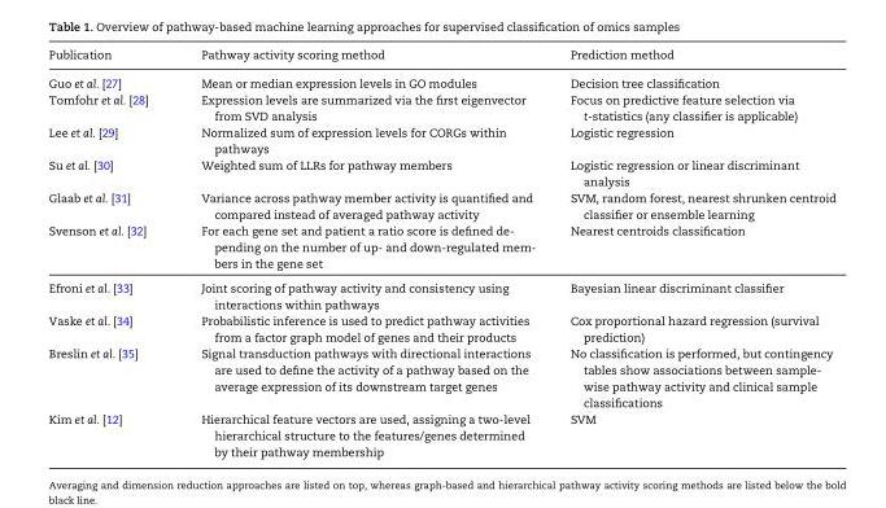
<table><thead><tr><td>Publication</td><td>Pathway activity scoring method</td><td>Prediction method</td></tr></thead><tbody><tr><td>Guo et al. [27]</td><td>Mean or median expression levels in GO modules</td><td>Decision tree classification</td></tr><tr><td>Tomfohr et al. [28]</td><td>Expression levels are summarized via the first eigenvector from SVD analysis</td><td>Focus on predictive feature selection via t-statistics (any classifier is applicable)</td></tr><tr><td>Lee et al. [29]</td><td>Normalized sum of expression levels for CORGs within pathways</td><td>Logistic regression</td></tr><tr><td>Su et al. [30]</td><td>Weighted sum of LLRs for pathway members</td><td>Logistic regression or linear discriminant analysis</td></tr><tr><td>Glaab et al. [31]</td><td>Variance across pathway member activity is quantified and compared instead of averaged pathway activity</td><td>SVM, random forest, nearest shrunken centroid classifier or ensemble learning</td></tr><tr><td>Svenson et al. [32]</td><td>For each gene set and patient a ratio score is defined de- pending on the number of up- and down-regulated mem- bers in the gene set</td><td>Nearest centroids classification</td></tr><tr><td>Efroni et al. [33]</td><td>Joint scoring of pathway activity and consistency using interactions within pathways</td><td>Bayesian linear discriminant classifier</td></tr><tr><td>Vaske et al. [34]</td><td>Probabilistic inference is used to predict pathway activities from a factor graph model of genes and their products</td><td>Cox proportional hazard regression (survival prediction)</td></tr><tr><td>Breslin et al. [35]</td><td>Signal transduction pathways with directional interactions are used to define the activity of a pathway based on the average expression of its downstream target genes</td><td>No classification is performed, but contingency tables show associations between sample- wise pathway activity and clinical sample classifications</td></tr><tr><td>Kim et al. [12]</td><td>Hierarchical feature vectors are used, assigning a two-level hierarchical structure to the features/genes determined by their pathway membership</td><td>SVM</td></tr></tbody></table>